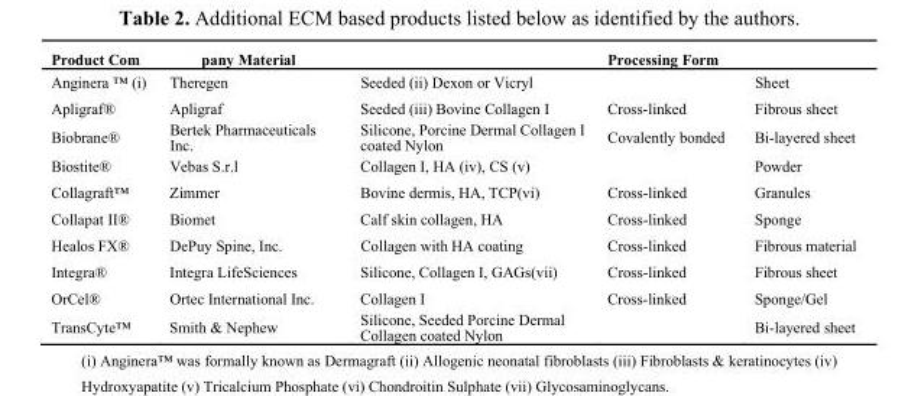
<table><thead><tr><td>Product Com</td><td>pany Material</td><td></td><td>Processing Form</td><td></td></tr></thead><tbody><tr><td>Anginera ™ (i)</td><td>Theregen</td><td>Seeded (ii) Dexon or Vicryl</td><td></td><td>Sheet</td></tr><tr><td>Apligraf®</td><td>Apligraf</td><td>Seeded (iii) Bovine Collagen I</td><td>Cross-linked</td><td>Fibrous sheet</td></tr><tr><td>Biobrane®</td><td>Bertek Pharmaceuticals Inc.</td><td>Silicone, Porcine Dermal Collagen I coated Nylon</td><td>Covalently bonded</td><td>Bi-layered sheet</td></tr><tr><td>Biostite®</td><td>Vebas S.r.l</td><td>Collagen I, HA (iv), CS (v)</td><td></td><td>Powder</td></tr><tr><td>Collagraft™</td><td>Zimmer</td><td>Bovine dermis, HA, TCP(vi)</td><td>Cross-linked</td><td>Granules</td></tr><tr><td>Collapat II®</td><td>Biomet</td><td>Calf skin collagen, HA</td><td>Cross-linked</td><td>Sponge</td></tr><tr><td>Healos FX®</td><td>DePuy Spine, Inc.</td><td>Collagen with HA coating</td><td>Cross-linked</td><td>Fibrous material</td></tr><tr><td>Integra®</td><td>Integra LifeSciences</td><td>Silicone, Collagen I, GAGs(vii)</td><td>Cross-linked</td><td>Fibrous sheet</td></tr><tr><td>OrCel®</td><td>Ortec International Inc.</td><td>Collagen I</td><td>Cross-linked</td><td>Sponge/Gel</td></tr><tr><td>TransCyte™</td><td>Smith &amp; Nephew</td><td>Silicone, Seeded Porcine Dermal Collagen coated Nylon</td><td></td><td>Bi-layered sheet</td></tr></tbody></table>